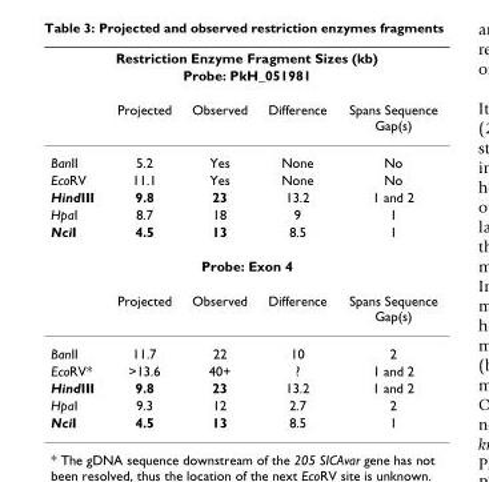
<table><thead><tr><td rowspan="2" colspan="5">Restriction Enzyme Fragment Sizes (kb) Probe: PkH_051981</td></tr><tr></tr><tr><td></td><td>Projected</td><td>Observed</td><td>Difference</td><td>Spans Sequence Gap(s)</td></tr></thead><tbody><tr><td>BanII</td><td>5.2</td><td>Yes</td><td>None</td><td>No</td></tr><tr><td>EcoRV</td><td>11.1</td><td>Yes</td><td>None</td><td>No</td></tr><tr><td>HindIII</td><td>9.8</td><td>23</td><td>13.2</td><td>1 and 2</td></tr><tr><td>HpaI</td><td>8.7</td><td>18</td><td>9</td><td>1</td></tr><tr><td>NciI</td><td>4.5</td><td>13</td><td>8.5</td><td>1</td></tr><tr><td colspan="5">Probe: Exon 4</td></tr><tr><td></td><td>Projected</td><td>Observed</td><td>Difference</td><td>Spans Sequence Gap(s)</td></tr><tr><td>BanII</td><td>11.7</td><td>22</td><td>10</td><td>2</td></tr><tr><td>EcoRV*</td><td>&gt;13.6</td><td>40+</td><td>?</td><td>1 and 2</td></tr><tr><td>HindIII</td><td>9.8</td><td>23</td><td>13.2</td><td>1 and 2</td></tr><tr><td>HpaI</td><td>9.3</td><td>12</td><td>2.7</td><td>2</td></tr><tr><td>NciI</td><td>4.5</td><td>13</td><td>8.5</td><td>1</td></tr></tbody></table>